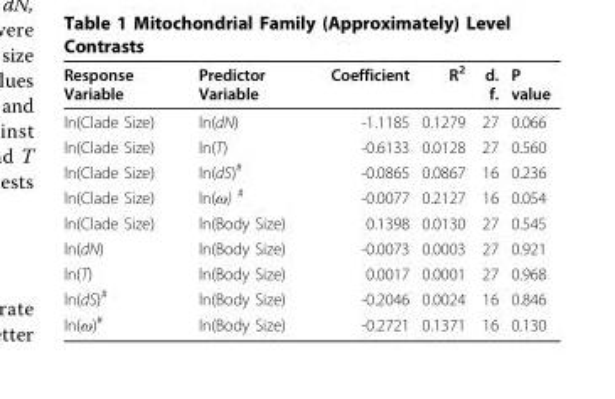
<table><thead><tr><td>Response Variable</td><td>Predictor Variable</td><td>Coefficient</td><td>R<sup>2</sup></td><td>d. f.</td><td>P value</td></tr></thead><tbody><tr><td>ln(Clade Size)</td><td>ln(dN)</td><td>-1.1185</td><td>0.1279</td><td>27</td><td>0.066</td></tr><tr><td>ln(Clade Size)</td><td>ln(T)</td><td>-0.6133</td><td>0.0128</td><td>27</td><td>0.560</td></tr><tr><td>ln(Clade Size)</td><td>ln(dS)<sup>#</sup></td><td>-0.0865</td><td>0.0867</td><td>16</td><td>0.236</td></tr><tr><td>ln(Clade Size)</td><td>ln(ω) <sup>#</sup></td><td>-0.0077</td><td>0.2127</td><td>16</td><td>0.054</td></tr><tr><td>ln(Clade Size)</td><td>ln(Body Size)</td><td>0.1398</td><td>0.0130</td><td>27</td><td>0.545</td></tr><tr><td>ln(dN)</td><td>ln(Body Size)</td><td>-0.0073</td><td>0.0003</td><td>27</td><td>0.921</td></tr><tr><td>ln(T)</td><td>ln(Body Size)</td><td>0.0017</td><td>0.0001</td><td>27</td><td>0.968</td></tr><tr><td>ln(dS)<sup>#</sup></td><td>ln(Body Size)</td><td>-0.2046</td><td>0.0024</td><td>16</td><td>0.846</td></tr><tr><td>ln(ω)<sup>#</sup></td><td>ln(Body Size)</td><td>-0.2721</td><td>0.1371</td><td>16</td><td>0.130</td></tr></tbody></table>